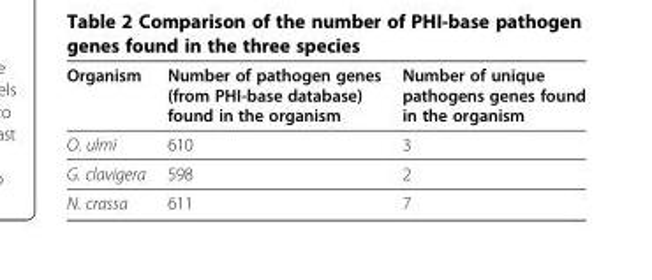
<table><thead><tr><td>Organism</td><td>Number of pathogen genes (from PHI-base database) found in the organism</td><td>Number of unique pathogens genes found in the organism</td></tr></thead><tbody><tr><td>O. ulmi</td><td>610</td><td>3</td></tr><tr><td>G. clavigera</td><td>598</td><td>2</td></tr><tr><td>N. crassa</td><td>611</td><td>7</td></tr></tbody></table>